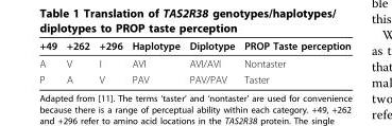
<table><thead><tr><td>+49</td><td>+262</td><td>+296</td><td>Haplotype</td><td>Diplotype</td><td>PROP Taste perception</td></tr></thead><tbody><tr><td>A</td><td>V</td><td>I</td><td>AVI</td><td>AVI/AVI</td><td>Nontaster</td></tr><tr><td>P</td><td>A</td><td>V</td><td>PAV</td><td>PAV/PAV</td><td>Taster</td></tr></tbody></table>